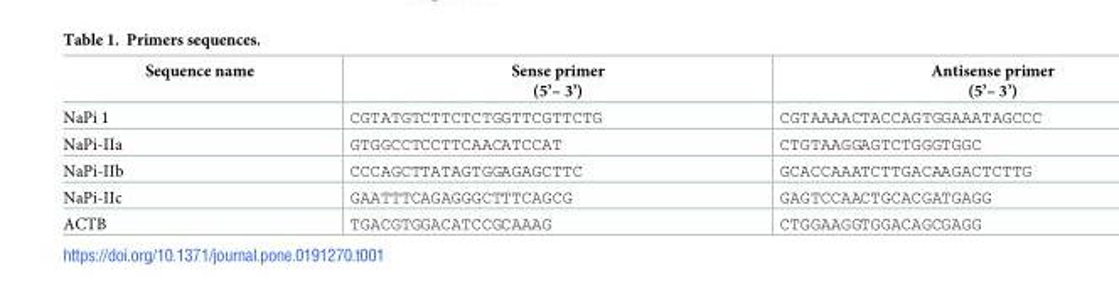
<table><thead><tr><td>Sequence name</td><td>Sense primer (5’– 3’)</td><td>Antisense primer (5’– 3’)</td></tr></thead><tbody><tr><td>NaPi 1</td><td>CGTATGTCTTCTCTGGTTCGTTCTG</td><td>CGTAAAACTACCAGTGGAAATAGCCC</td></tr><tr><td>NaPi-IIa</td><td>GTGGCCTCCTTCAACATCCAT</td><td>CTGTAAGGAGTCTGGGTGGC</td></tr><tr><td>NaPi-IIb</td><td>CCCAGCTTATAGTGGAGAGCTTC</td><td>GCACCAAATCTTGACAAGACTCTTG</td></tr><tr><td>NaPi-IIc</td><td>GAATTTCAGAGGGCTTTCAGCG</td><td>GAGTCCAACTGCACGATGAGG</td></tr><tr><td>ACTB</td><td>TGACGTGGACATCCGCAAAG</td><td>CTGGAAGGTGGACAGCGAGG</td></tr></tbody></table>